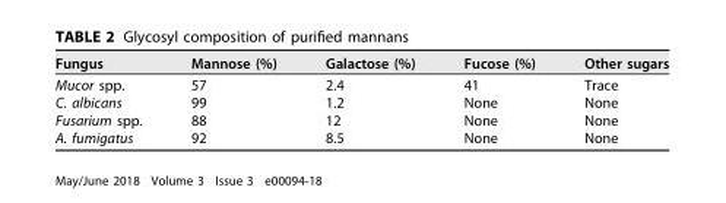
<table><thead><tr><td>Fungus</td><td>Mannose (%)</td><td>Galactose (%)</td><td>Fucose (%)</td><td>Other sugars</td></tr></thead><tbody><tr><td>Mucor spp.</td><td>57</td><td>2.4</td><td>41</td><td>Trace</td></tr><tr><td>C. albicans</td><td>99</td><td>1.2</td><td>None</td><td>None</td></tr><tr><td>Fusarium spp.</td><td>88</td><td>12</td><td>None</td><td>None</td></tr><tr><td>A. fumigatus</td><td>92</td><td>8.5</td><td>None</td><td>None</td></tr></tbody></table>